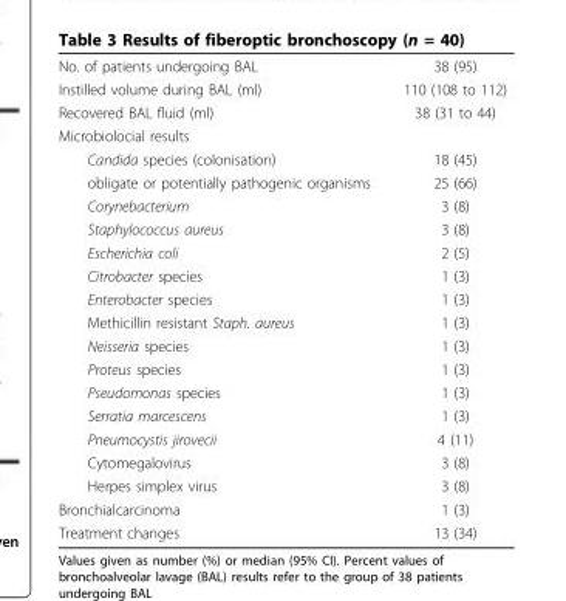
<table><tbody><tr><td>No. of patients undergoing BAL</td><td>38 (95)</td></tr><tr><td>Instilled volume during BAL (ml)</td><td>110 (108 to 112)</td></tr><tr><td>Recovered BAL fluid (ml)</td><td>38 (31 to 44)</td></tr><tr><td colspan="2">Microbiolocial results</td></tr><tr><td>Candida species (colonisation)</td><td>18 (45)</td></tr><tr><td>obligate or potentially pathogenic organisms</td><td>25 (66)</td></tr><tr><td>Corynebacterium</td><td>3 (8)</td></tr><tr><td>Staphylococcus aureus</td><td>3 (8)</td></tr><tr><td>Escherichia coli</td><td>2 (5)</td></tr><tr><td>Citrobacter species</td><td>1 (3)</td></tr><tr><td>Enterobacter species</td><td>1 (3)</td></tr><tr><td>Methicillin resistant Staph. aureus</td><td>1 (3)</td></tr><tr><td>Neisseria species</td><td>1 (3)</td></tr><tr><td>Proteus species</td><td>1 (3)</td></tr><tr><td>Pseudomonas species</td><td>1 (3)</td></tr><tr><td>Serratia marcescens</td><td>1 (3)</td></tr><tr><td>Pneumocystis jirovecii</td><td>4 (11)</td></tr><tr><td>Cytomegalovirus</td><td>3 (8)</td></tr><tr><td>Herpes simplex virus</td><td>3 (8)</td></tr><tr><td>Bronchialcarcinoma</td><td>1 (3)</td></tr><tr><td>Treatment changes</td><td>13 (34)</td></tr></tbody></table>